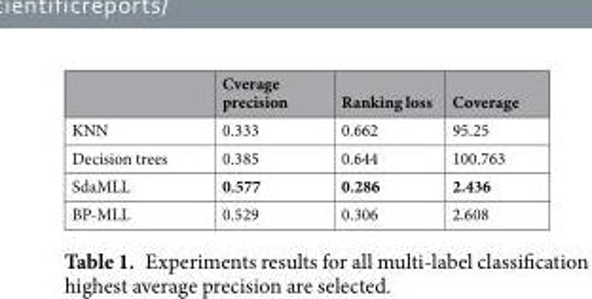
<table><thead><tr><td></td><td>Cverage precision</td><td>Ranking loss</td><td>Coverage</td></tr></thead><tbody><tr><td>KNN</td><td>0.333</td><td>0.662</td><td>95.25</td></tr><tr><td>Decision trees</td><td>0.385</td><td>0.644</td><td>100.763</td></tr><tr><td>SdaMLL</td><td>0.577</td><td>0.286</td><td>2.436</td></tr><tr><td>BP-MLL</td><td>0.529</td><td>0.306</td><td>2.608</td></tr></tbody></table>